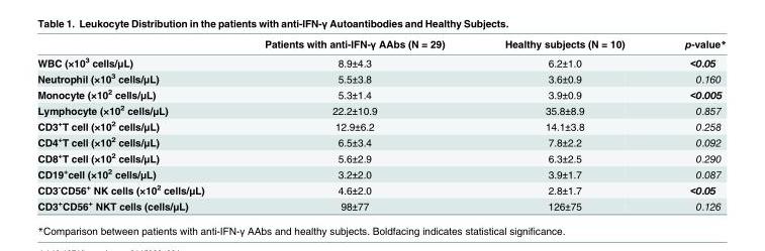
<table><thead><tr><td></td><td>Patients with anti-IFN-γ AAbs (N = 29)</td><td>Healthy subjects (N = 10)</td><td>p-value*</td></tr></thead><tbody><tr><td>WBC (×10<sup>3</sup> cells/μL)</td><td>8.9±4.3</td><td>6.2±1.0</td><td>&lt;0.05</td></tr><tr><td>Neutrophil (×10<sup>3</sup> cells/μL)</td><td>5.5±3.8</td><td>3.6±0.9</td><td>0.160</td></tr><tr><td>Monocyte (×10<sup>2</sup> cells/μL)</td><td>5.3±1.4</td><td>3.9±0.9</td><td>&lt;0.005</td></tr><tr><td>Lymphocyte (×10<sup>2</sup> cells/μL)</td><td>22.2±10.9</td><td>35.8±8.9</td><td>0.857</td></tr><tr><td>CD3<sup>+</sup>T cell (×10<sup>2</sup> cells/μL)</td><td>12.9±6.2</td><td>14.1±3.8</td><td>0.258</td></tr><tr><td>CD4<sup>+</sup>T cell (×10<sup>2</sup> cells/μL)</td><td>6.5±3.4</td><td>7.8±2.2</td><td>0.092</td></tr><tr><td>CD8<sup>+</sup>T cell (×10<sup>2</sup> cells/μL)</td><td>5.6±2.9</td><td>6.3±2.5</td><td>0.290</td></tr><tr><td>CD19<sup>+</sup>cell (×10<sup>2</sup> cells/μL)</td><td>3.2±2.0</td><td>3.9±1.7</td><td>0.087</td></tr><tr><td>CD3<sup>-</sup>CD56<sup>+</sup> NK cells (×10<sup>2</sup> cells/μL)</td><td>4.6±2.0</td><td>2.8±1.7</td><td>&lt;0.05</td></tr><tr><td>CD3<sup>+</sup>CD56<sup>+</sup> NKT cells (cells/μL)</td><td>98±77</td><td>126±75</td><td>0.126</td></tr></tbody></table>